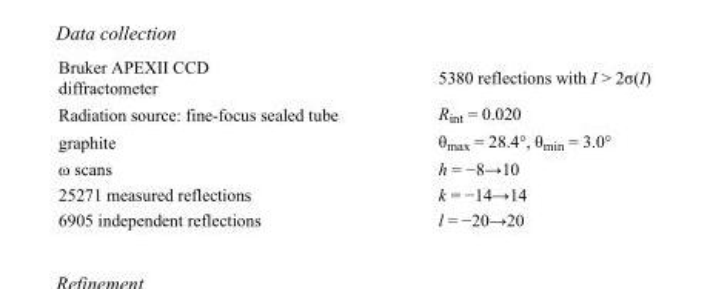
<table><tbody><tr><td>Bruker APEXII CCD diffractometer</td><td>5380 reflections with I &gt; 2σ(I)</td></tr><tr><td>Radiation source: fine-focus sealed tube</td><td>R<sub>int</sub> = 0.020</td></tr><tr><td>graphite</td><td>θ<sub>max</sub> = 28.4°, θ<sub>min</sub> = 3.0°</td></tr><tr><td>ω scans</td><td>h = −8→10</td></tr><tr><td>25271 measured reflections</td><td>k = −14→14</td></tr><tr><td>6905 independent reflections</td><td>l = −20→20</td></tr></tbody></table>